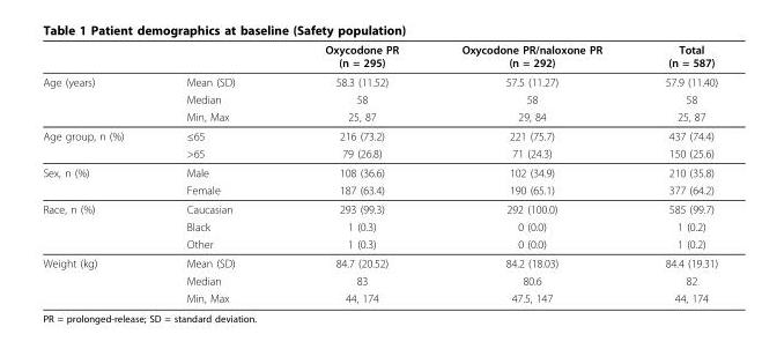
<table><thead><tr><td></td><td></td><td>Oxycodone PR (n = 295)</td><td>Oxycodone PR/naloxone PR (n = 292)</td><td>Total (n = 587)</td></tr></thead><tbody><tr><td rowspan="3">Age (years)</td><td>Mean (SD)</td><td>58.3 (11.52)</td><td>57.5 (11.27)</td><td>57.9 (11.40)</td></tr><tr><td>Median</td><td>58</td><td>58</td><td>58</td></tr><tr><td>Min, Max</td><td>25, 87</td><td>29, 84</td><td>25, 87</td></tr><tr><td rowspan="2">Age group, n (%)</td><td>≤65</td><td>216 (73.2)</td><td>221 (75.7)</td><td>437 (74.4)</td></tr><tr><td>&gt;65</td><td>79 (26.8)</td><td>71 (24.3)</td><td>150 (25.6)</td></tr><tr><td rowspan="2">Sex, n (%)</td><td>Male</td><td>108 (36.6)</td><td>102 (34.9)</td><td>210 (35.8)</td></tr><tr><td>Female</td><td>187 (63.4)</td><td>190 (65.1)</td><td>377 (64.2)</td></tr><tr><td rowspan="3">Race, n (%)</td><td>Caucasian</td><td>293 (99.3)</td><td>292 (100.0)</td><td>585 (99.7)</td></tr><tr><td>Black</td><td>1 (0.3)</td><td>0 (0.0)</td><td>1 (0.2)</td></tr><tr><td>Other</td><td>1 (0.3)</td><td>0 (0.0)</td><td>1 (0.2)</td></tr><tr><td rowspan="3">Weight (kg)</td><td>Mean (SD)</td><td>84.7 (20.52)</td><td>84.2 (18.03)</td><td>84.4 (19.31)</td></tr><tr><td>Median</td><td>83</td><td>80.6</td><td>82</td></tr><tr><td>Min, Max</td><td>44, 174</td><td>47.5, 147</td><td>44, 174</td></tr></tbody></table>